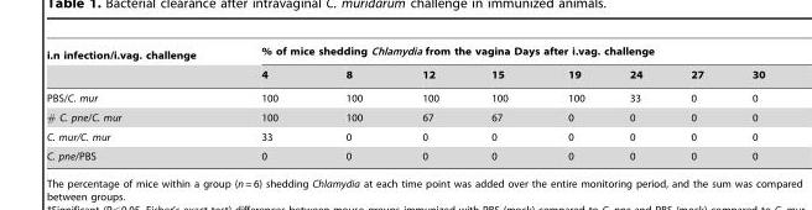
<table><thead><tr><td rowspan="2">i.n infection/i.vag. challenge</td><td colspan="8">% of mice shedding Chlamydia from the vagina Days after i.vag. challenge</td></tr><tr><td>4</td><td>8</td><td>12</td><td>15</td><td>19</td><td>24</td><td>27</td><td>30</td></tr></thead><tbody><tr><td>PBS/C. mur</td><td>100</td><td>100</td><td>100</td><td>100</td><td>100</td><td>33</td><td>0</td><td>0</td></tr><tr><td># C. pne/C. mur</td><td>100</td><td>100</td><td>67</td><td>67</td><td>0</td><td>0</td><td>0</td><td>0</td></tr><tr><td>C. mur/C. mur</td><td>33</td><td>0</td><td>0</td><td>0</td><td>0</td><td>0</td><td>0</td><td>0</td></tr><tr><td>C. pne/PBS</td><td>0</td><td>0</td><td>0</td><td>0</td><td>0</td><td>0</td><td>0</td><td>0</td></tr></tbody></table>